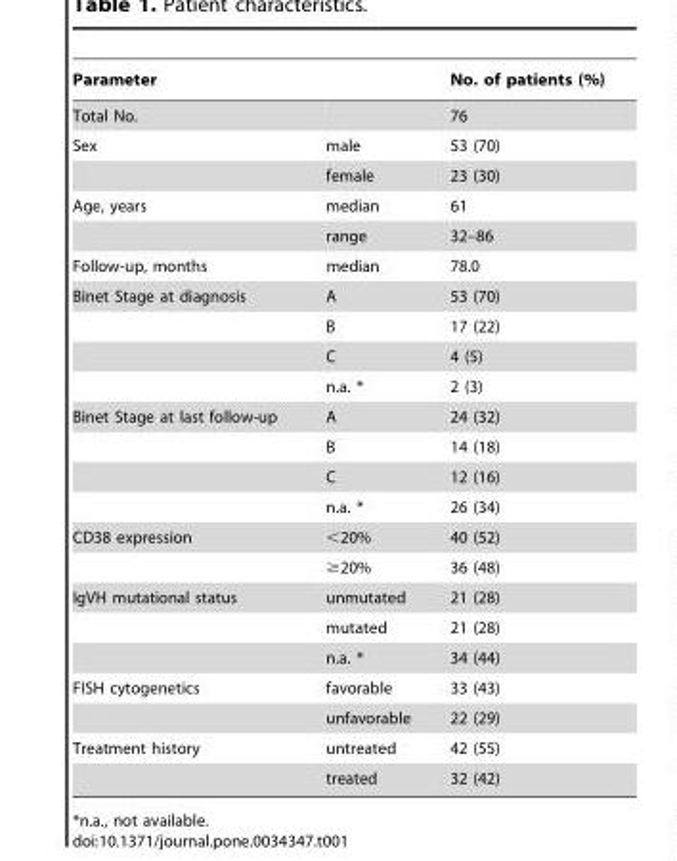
<table><thead><tr><td>Parameter</td><td></td><td>No. of patients (%)</td></tr></thead><tbody><tr><td>Total No.</td><td></td><td>76</td></tr><tr><td rowspan="2">Sex</td><td>male</td><td>53 (70)</td></tr><tr><td>female</td><td>23 (30)</td></tr><tr><td rowspan="2">Age, years</td><td>median</td><td>61</td></tr><tr><td>range</td><td>32–86</td></tr><tr><td>Follow-up, months</td><td>median</td><td>78.0</td></tr><tr><td rowspan="4">Binet Stage at diagnosis</td><td>A</td><td>53 (70)</td></tr><tr><td>B</td><td>17 (22)</td></tr><tr><td>C</td><td>4 (5)</td></tr><tr><td>n.a. *</td><td>2 (3)</td></tr><tr><td rowspan="4">Binet Stage at last follow-up</td><td>A</td><td>24 (32)</td></tr><tr><td>B</td><td>14 (18)</td></tr><tr><td>C</td><td>12 (16)</td></tr><tr><td>n.a. *</td><td>26 (34)</td></tr><tr><td rowspan="2">CD38 expression</td><td>&lt;20%</td><td>40 (52)</td></tr><tr><td>≥20%</td><td>36 (48)</td></tr><tr><td rowspan="3">IgVH mutational status</td><td>unmutated</td><td>21 (28)</td></tr><tr><td>mutated</td><td>21 (28)</td></tr><tr><td>n.a. *</td><td>34 (44)</td></tr><tr><td rowspan="2">FISH cytogenetics</td><td>favorable</td><td>33 (43)</td></tr><tr><td>unfavorable</td><td>22 (29)</td></tr><tr><td rowspan="2">Treatment history</td><td>untreated</td><td>42 (55)</td></tr><tr><td>treated</td><td>32 (42)</td></tr></tbody></table>